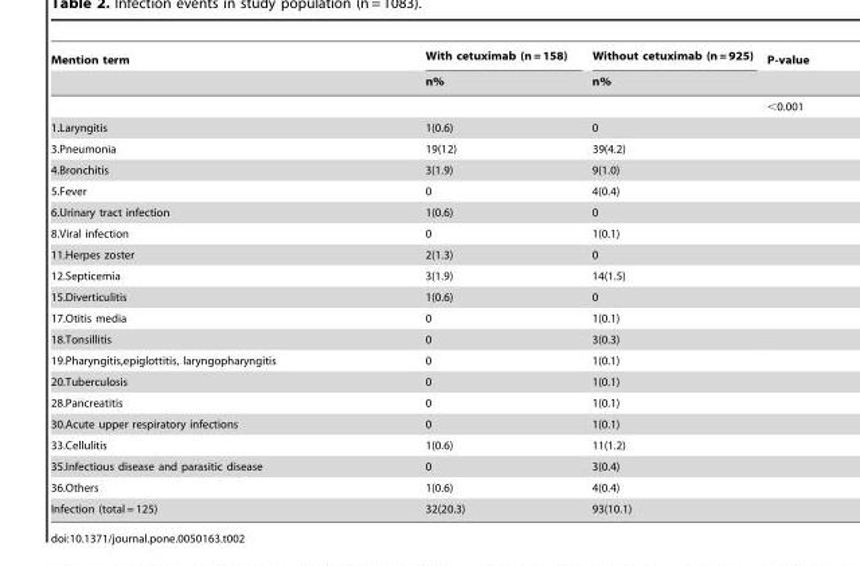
<table><thead><tr><td rowspan="2">Mention term</td><td rowspan="2">With cetuximab (n = 158) n%</td><td rowspan="2">Without cetuximab (n = 925) n%</td><td rowspan="2">P-value</td></tr><tr></tr></thead><tbody><tr><td></td><td></td><td></td><td>&lt;0.001</td></tr><tr><td>1.Laryngitis</td><td>1(0.6)</td><td>0</td><td></td></tr><tr><td>3.Pneumonia</td><td>19(12)</td><td>39(4.2)</td><td></td></tr><tr><td>4.Bronchitis</td><td>3(1.9)</td><td>9(1.0)</td><td></td></tr><tr><td>5.Fever</td><td>0</td><td>4(0.4)</td><td></td></tr><tr><td>6.Urinary tract infection</td><td>1(0.6)</td><td>0</td><td></td></tr><tr><td>8.Viral infection</td><td>0</td><td>1(0.1)</td><td></td></tr><tr><td>11.Herpes zoster</td><td>2(1.3)</td><td>0</td><td></td></tr><tr><td>12.Septicemia</td><td>3(1.9)</td><td>14(1.5)</td><td></td></tr><tr><td>15.Diverticulitis</td><td>1(0.6)</td><td>0</td><td></td></tr><tr><td>17.Otitis media</td><td>0</td><td>1(0.1)</td><td></td></tr><tr><td>18.Tonsillitis</td><td>0</td><td>3(0.3)</td><td></td></tr><tr><td>19.Pharyngitis,epiglottitis, laryngopharyngitis</td><td>0</td><td>1(0.1)</td><td></td></tr><tr><td>20.Tuberculosis</td><td>0</td><td>1(0.1)</td><td></td></tr><tr><td>28.Pancreatitis</td><td>0</td><td>1(0.1)</td><td></td></tr><tr><td>30.Acute upper respiratory infections</td><td>0</td><td>1(0.1)</td><td></td></tr><tr><td>33.Cellulitis</td><td>1(0.6)</td><td>11(1.2)</td><td></td></tr><tr><td>35.Infectious disease and parasitic disease</td><td>0</td><td>3(0.4)</td><td></td></tr><tr><td>36.Others</td><td>1(0.6)</td><td>4(0.4)</td><td></td></tr><tr><td>Infection (total = 125)</td><td>32(20.3)</td><td>93(10.1)</td><td></td></tr></tbody></table>